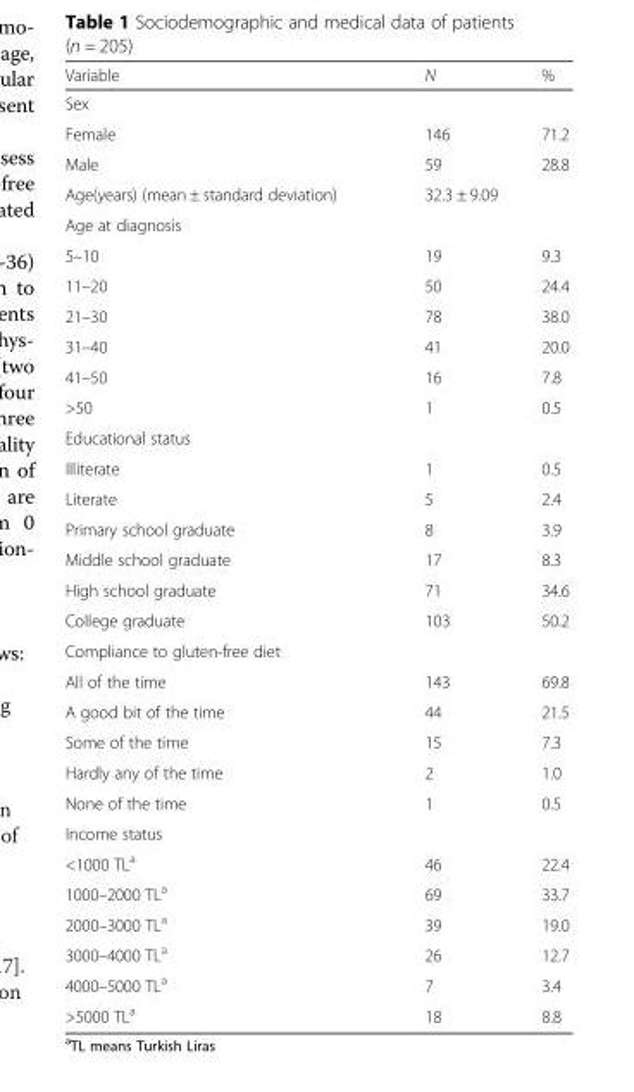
<table><thead><tr><td>Variable</td><td>N</td><td>%</td></tr></thead><tbody><tr><td colspan="3">Sex</td></tr><tr><td>Female</td><td>146</td><td>71.2</td></tr><tr><td>Male</td><td>59</td><td>28.8</td></tr><tr><td>Age(years) (mean ± standard deviation)</td><td colspan="2">32.3 ± 9.09</td></tr><tr><td colspan="3">Age at diagnosis</td></tr><tr><td>5–10</td><td>19</td><td>9.3</td></tr><tr><td>11–20</td><td>50</td><td>24.4</td></tr><tr><td>21–30</td><td>78</td><td>38.0</td></tr><tr><td>31–40</td><td>41</td><td>20.0</td></tr><tr><td>41–50</td><td>16</td><td>7.8</td></tr><tr><td>&gt;50</td><td>1</td><td>0.5</td></tr><tr><td colspan="3">Educational status</td></tr><tr><td>Illiterate</td><td>1</td><td>0.5</td></tr><tr><td>Literate</td><td>5</td><td>2.4</td></tr><tr><td>Primary school graduate</td><td>8</td><td>3.9</td></tr><tr><td>Middle school graduate</td><td>17</td><td>8.3</td></tr><tr><td>High school graduate</td><td>71</td><td>34.6</td></tr><tr><td>College graduate</td><td>103</td><td>50.2</td></tr><tr><td colspan="3">Compliance to gluten-free diet</td></tr><tr><td>All of the time</td><td>143</td><td>69.8</td></tr><tr><td>A good bit of the time</td><td>44</td><td>21.5</td></tr><tr><td>Some of the time</td><td>15</td><td>7.3</td></tr><tr><td>Hardly any of the time</td><td>2</td><td>1.0</td></tr><tr><td>None of the time</td><td>1</td><td>0.5</td></tr><tr><td colspan="3">Income status</td></tr><tr><td>&lt;1000 TL<sup>a</sup></td><td>46</td><td>22.4</td></tr><tr><td>1000–2000 TL<sup>a</sup></td><td>69</td><td>33.7</td></tr><tr><td>2000–3000 TL<sup>a</sup></td><td>39</td><td>19.0</td></tr><tr><td>3000–4000 TL<sup>a</sup></td><td>26</td><td>12.7</td></tr><tr><td>4000–5000 TL<sup>a</sup></td><td>7</td><td>3.4</td></tr><tr><td>&gt;5000 TL<sup>a</sup></td><td>18</td><td>8.8</td></tr></tbody></table>